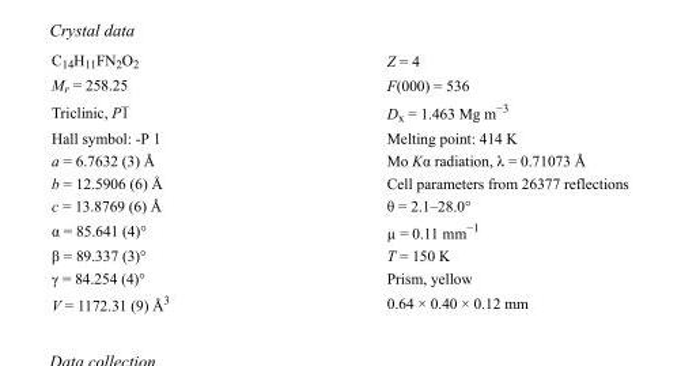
<table><tbody><tr><td>C<sub>14</sub>H<sub>11</sub>FN<sub>2</sub>O<sub>2</sub></td><td>Z = 4</td></tr><tr><td>M<sub>r</sub> = 258.25</td><td>F(000) = 536</td></tr><tr><td>Triclinic, P1</td><td>D<sub>x</sub> = 1.463 Mg m<sup>−3</sup></td></tr><tr><td>Hall symbol: -P 1</td><td>Melting point: 414 K</td></tr><tr><td>a = 6.7632 (3) Å</td><td>Mo Kα radiation, λ = 0.71073 Å</td></tr><tr><td>b = 12.5906 (6) Å</td><td>Cell parameters from 26377 reflections</td></tr><tr><td>c = 13.8769 (6) Å</td><td>θ = 2.1–28.0°</td></tr><tr><td>α = 85.641 (4)°</td><td>µ = 0.11 mm<sup>−1</sup></td></tr><tr><td>β = 89.337 (3)°</td><td>T = 150 K</td></tr><tr><td>γ = 84.254 (4)°</td><td>Prism, yellow</td></tr><tr><td>V = 1172.31 (9) Å<sup>3</sup></td><td>0.64 × 0.40 × 0.12 mm</td></tr></tbody></table>